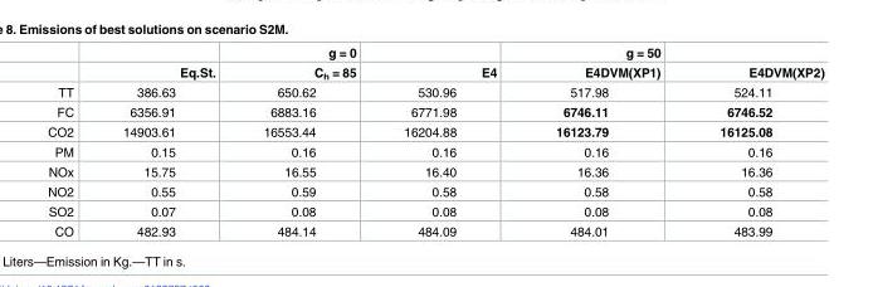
<table><thead><tr><td rowspan="2"></td><td rowspan="2">Eq.St.</td><td rowspan="2">g = 0 C<sub>h</sub> = 85</td><td rowspan="2">E4</td><td rowspan="2">g = 50 E4DVM(XP1)</td><td rowspan="2">E4DVM(XP2)</td></tr><tr></tr></thead><tbody><tr><td>TT</td><td>386.63</td><td>650.62</td><td>530.96</td><td>517.98</td><td>524.11</td></tr><tr><td>FC</td><td>6356.91</td><td>6883.16</td><td>6771.98</td><td>6746.11</td><td>6746.52</td></tr><tr><td>CO2</td><td>14903.61</td><td>16553.44</td><td>16204.88</td><td>16123.79</td><td>16125.08</td></tr><tr><td>PM</td><td>0.15</td><td>0.16</td><td>0.16</td><td>0.16</td><td>0.16</td></tr><tr><td>NOx</td><td>15.75</td><td>16.55</td><td>16.40</td><td>16.36</td><td>16.36</td></tr><tr><td>NO2</td><td>0.55</td><td>0.59</td><td>0.58</td><td>0.58</td><td>0.58</td></tr><tr><td>SO2</td><td>0.07</td><td>0.08</td><td>0.08</td><td>0.08</td><td>0.08</td></tr><tr><td>CO</td><td>482.93</td><td>484.14</td><td>484.09</td><td>484.01</td><td>483.99</td></tr></tbody></table>